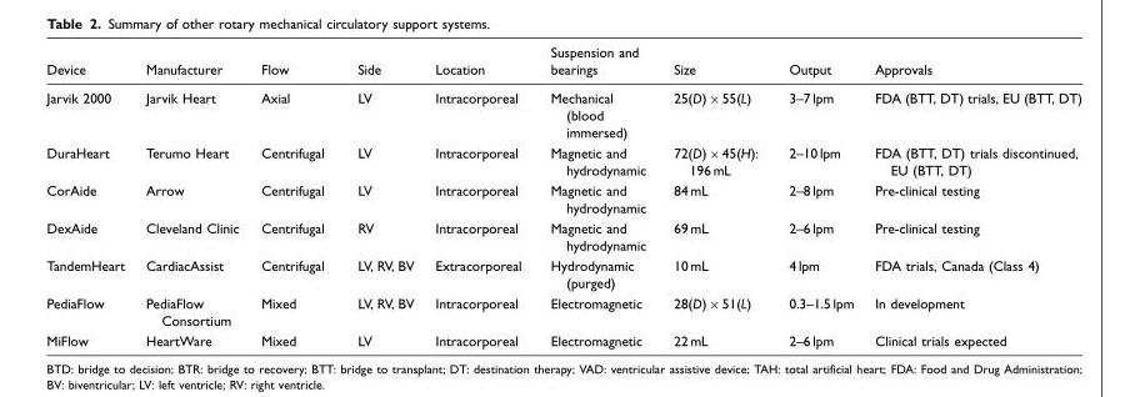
<table><thead><tr><td>Device</td><td>Manufacturer</td><td>Flow</td><td>Side</td><td>Location</td><td>Suspension and bearings</td><td>Size</td><td>Output</td><td>Approvals</td></tr></thead><tbody><tr><td>Jarvik 2000</td><td>Jarvik Heart</td><td>Axial</td><td>LV</td><td>Intracorporeal</td><td>Mechanical (blood immersed)</td><td>25(D) × 55(L)</td><td>3–7 lpm</td><td>FDA (BTT, DT) trials, EU (BTT, DT)</td></tr><tr><td>DuraHeart</td><td>Terumo Heart</td><td>Centrifugal</td><td>LV</td><td>Intracorporeal</td><td>Magnetic and hydrodynamic</td><td>72(D) × 45(H): 196 mL</td><td>2–10 lpm</td><td>FDA (BTT, DT) trials discontinued, EU (BTT, DT)</td></tr><tr><td>CorAide</td><td>Arrow</td><td>Centrifugal</td><td>LV</td><td>Intracorporeal</td><td>Magnetic and hydrodynamic</td><td>84 mL</td><td>2–8 lpm</td><td>Pre-clinical testing</td></tr><tr><td>DexAide</td><td>Cleveland Clinic</td><td>Centrifugal</td><td>RV</td><td>Intracorporeal</td><td>Magnetic and hydrodynamic</td><td>69 mL</td><td>2–6 lpm</td><td>Pre-clinical testing</td></tr><tr><td>TandemHeart</td><td>CardiacAssist</td><td>Centrifugal</td><td>LV, RV, BV</td><td>Extracorporeal</td><td>Hydrodynamic (purged)</td><td>10 mL</td><td>4 lpm</td><td>FDA trials, Canada (Class 4)</td></tr><tr><td>PediaFlow</td><td>PediaFlow Consortium</td><td>Mixed</td><td>LV, RV, BV</td><td>Intracorporeal</td><td>Electromagnetic</td><td>28(D) × 51(L)</td><td>0.3–1.5 lpm</td><td>In development</td></tr><tr><td>MiFlow</td><td>HeartWare</td><td>Mixed</td><td>LV</td><td>Intracorporeal</td><td>Electromagnetic</td><td>22 mL</td><td>2–6 lpm</td><td>Clinical trials expected</td></tr></tbody></table>